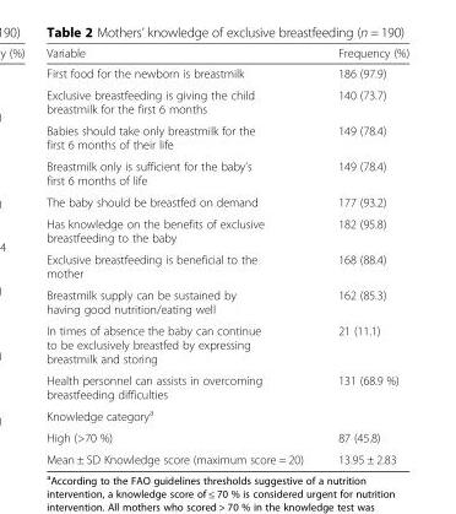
<table><thead><tr><td>Variable</td><td>Frequency (%)</td></tr></thead><tbody><tr><td>First food for the newborn is breastmilk</td><td>186 (97.9)</td></tr><tr><td>Exclusive breastfeeding is giving the child breastmilk for the first 6 months</td><td>140 (73.7)</td></tr><tr><td>Babies should take only breastmilk for the first 6 months of their life</td><td>149 (78.4)</td></tr><tr><td>Breastmilk only is sufficient for the baby’s first 6 months of life</td><td>149 (78.4)</td></tr><tr><td>The baby should be breastfed on demand</td><td>177 (93.2)</td></tr><tr><td>Has knowledge on the benefits of exclusive breastfeeding to the baby</td><td>182 (95.8)</td></tr><tr><td>Exclusive breastfeeding is beneficial to the mother</td><td>168 (88.4)</td></tr><tr><td>Breastmilk supply can be sustained by having good nutrition/eating well</td><td>162 (85.3)</td></tr><tr><td>In times of absence the baby can continue to be exclusively breastfed by expressing breastmilk and storing</td><td>21 (11.1)</td></tr><tr><td>Health personnel can assists in overcoming breastfeeding difficulties</td><td>131 (68.9 %)</td></tr><tr><td colspan="2">Knowledge category<sup>a</sup></td></tr><tr><td>High (&gt;70 %)</td><td>87 (45.8)</td></tr><tr><td>Mean ± SD Knowledge score (maximum score = 20)</td><td>13.95 ± 2.83</td></tr></tbody></table>